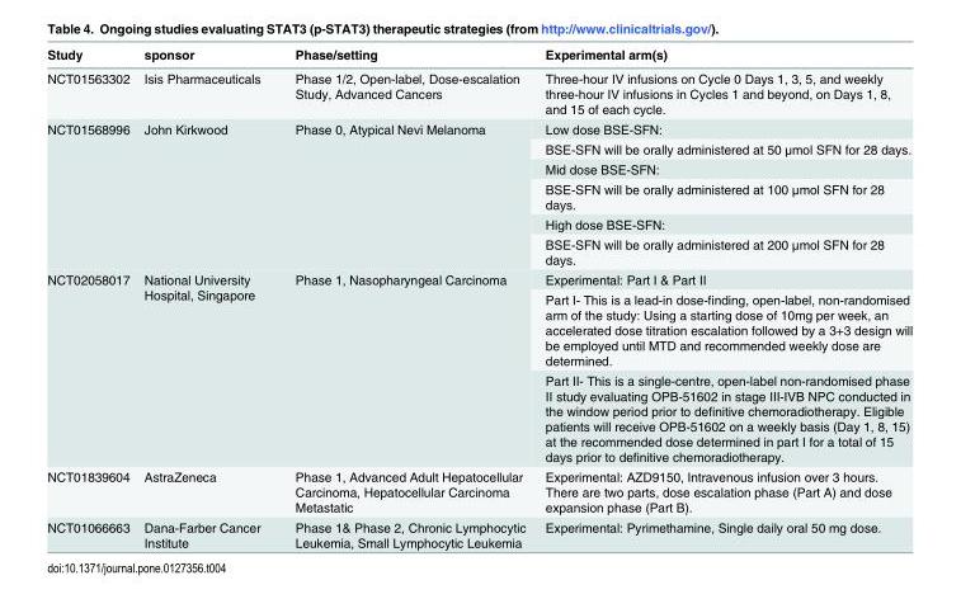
<table><thead><tr><td>Study</td><td>sponsor</td><td>Phase/setting</td><td>Experimental arm(s)</td></tr></thead><tbody><tr><td>NCT01563302</td><td>Isis Pharmaceuticals</td><td>Phase 1/2, Open-label, Dose-escalation Study, Advanced Cancers</td><td>Three-hour IV infusions on Cycle 0 Days 1, 3, 5, and weekly three-hour IV infusions in Cycles 1 and beyond, on Days 1, 8, and 15 of each cycle.</td></tr><tr><td rowspan="6">NCT01568996</td><td rowspan="6">John Kirkwood</td><td rowspan="6">Phase 0, Atypical Nevi Melanoma</td><td>Low dose BSE-SFN:</td></tr><tr><td>BSE-SFN will be orally administered at 50 μmol SFN for 28 days.</td></tr><tr><td>Mid dose BSE-SFN:</td></tr><tr><td>BSE-SFN will be orally administered at 100 μmol SFN for 28 days.</td></tr><tr><td>High dose BSE-SFN:</td></tr><tr><td>BSE-SFN will be orally administered at 200 μmol SFN for 28 days.</td></tr><tr><td rowspan="3">NCT02058017</td><td rowspan="3">National University Hospital, Singapore</td><td rowspan="3">Phase 1, Nasopharyngeal Carcinoma</td><td>Experimental: Part I &amp; Part II</td></tr><tr><td>Part I- This is a lead-in dose-finding, open-label, non-randomised arm of the study: Using a starting dose of 10mg per week, an accelerated dose titration escalation followed by a 3+3 design will be employed until MTD and recommended weekly dose are determined.</td></tr><tr><td>Part II- This is a single-centre, open-label non-randomised phase II study evaluating OPB-51602 in stage III-IVB NPC conducted in the window period prior to definitive chemoradiotherapy. Eligible patients will receive OPB-51602 on a weekly basis (Day 1, 8, 15) at the recommended dose determined in part I for a total of 15 days prior to definitive chemoradiotherapy.</td></tr><tr><td>NCT01839604</td><td>AstraZeneca</td><td>Phase 1, Advanced Adult Hepatocellular Carcinoma, Hepatocellular Carcinoma Metastatic</td><td>Experimental: AZD9150, Intravenous infusion over 3 hours. There are two parts, dose escalation phase (Part A) and dose expansion phase (Part B).</td></tr><tr><td>NCT01066663</td><td>Dana-Farber Cancer Institute</td><td>Phase 1&amp; Phase 2, Chronic Lymphocytic Leukemia, Small Lymphocytic Leukemia</td><td>Experimental: Pyrimethamine, Single daily oral 50 mg dose.</td></tr></tbody></table>